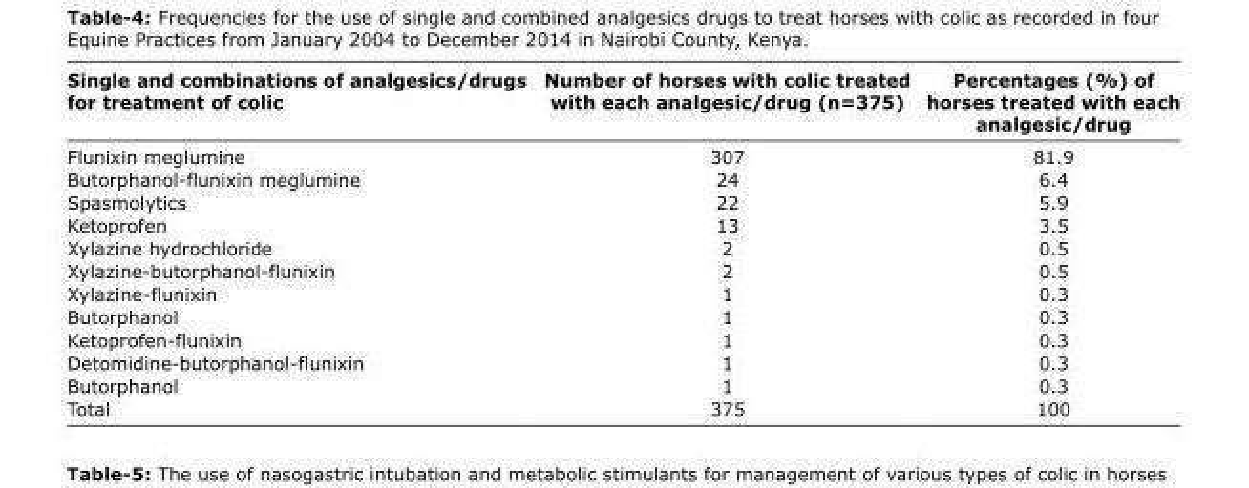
<table><thead><tr><td>Single and combinations of analgesics/drugs for treatment of colic</td><td>Number of horses with colic treated with each analgesic/drug (n=375)</td><td>Percentages (%) of horses treated with each analgesic/drug</td></tr></thead><tbody><tr><td>Flunixin meglumine</td><td>307</td><td>81.9</td></tr><tr><td>Butorphanol-flunixin meglumine</td><td>24</td><td>6.4</td></tr><tr><td>Spasmolytics</td><td>22</td><td>5.9</td></tr><tr><td>Ketoprofen</td><td>13</td><td>3.5</td></tr><tr><td>Xylazine hydrochloride</td><td>2</td><td>0.5</td></tr><tr><td>Xylazine-butorphanol-flunixin</td><td>2</td><td>0.5</td></tr><tr><td>Xylazine-flunixin</td><td>1</td><td>0.3</td></tr><tr><td>Butorphanol</td><td>1</td><td>0.3</td></tr><tr><td>Ketoprofen-flunixin</td><td>1</td><td>0.3</td></tr><tr><td>Detomidine-butorphanol-flunixin</td><td>1</td><td>0.3</td></tr><tr><td>Butorphanol</td><td>1</td><td>0.3</td></tr><tr><td>Total</td><td>375</td><td>100</td></tr></tbody></table>